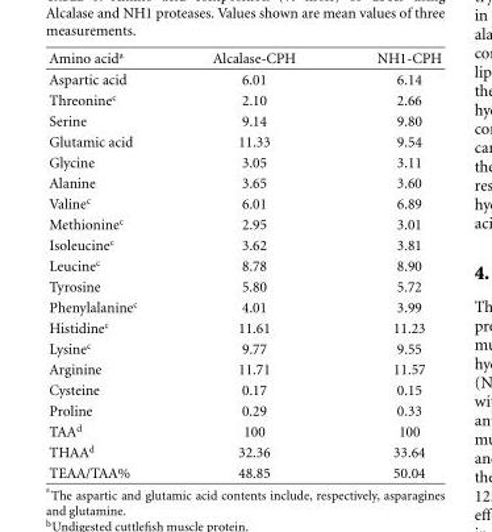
<table><thead><tr><td>Amino acid<sup>a</sup></td><td>Alcalase-CPH</td><td>NH1-CPH</td></tr></thead><tbody><tr><td>Aspartic acid</td><td>6.01</td><td>6.14</td></tr><tr><td>Threonine<sup>c</sup></td><td>2.10</td><td>2.66</td></tr><tr><td>Serine</td><td>9.14</td><td>9.80</td></tr><tr><td>Glutamic acid</td><td>11.33</td><td>9.54</td></tr><tr><td>Glycine</td><td>3.05</td><td>3.11</td></tr><tr><td>Alanine</td><td>3.65</td><td>3.60</td></tr><tr><td>Valine<sup>c</sup></td><td>6.01</td><td>6.89</td></tr><tr><td>Methionine<sup>c</sup></td><td>2.95</td><td>3.01</td></tr><tr><td>Isoleucine<sup>c</sup></td><td>3.62</td><td>3.81</td></tr><tr><td>Leucine<sup>c</sup></td><td>8.78</td><td>8.90</td></tr><tr><td>Tyrosine</td><td>5.80</td><td>5.72</td></tr><tr><td>Phenylalanine<sup>c</sup></td><td>4.01</td><td>3.99</td></tr><tr><td>Histidine<sup>c</sup></td><td>11.61</td><td>11.23</td></tr><tr><td>Lysine<sup>c</sup></td><td>9.77</td><td>9.55</td></tr><tr><td>Arginine</td><td>11.71</td><td>11.57</td></tr><tr><td>Cysteine</td><td>0.17</td><td>0.15</td></tr><tr><td>Proline</td><td>0.29</td><td>0.33</td></tr><tr><td>TAA<sup>d</sup></td><td>100</td><td>100</td></tr><tr><td>THAA<sup>d</sup></td><td>32.36</td><td>33.64</td></tr><tr><td>TEAA/TAA%</td><td>48.85</td><td>50.04</td></tr></tbody></table>